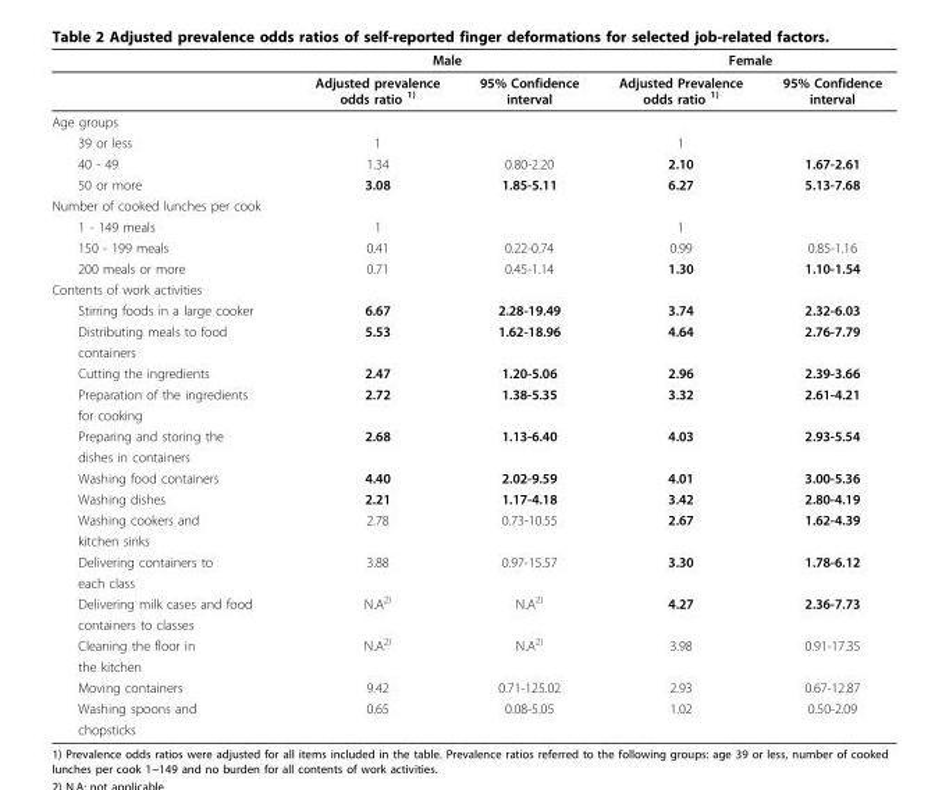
<table><thead><tr><td rowspan="2"></td><td colspan="2">Male</td><td colspan="2">Female</td></tr><tr><td>Adjusted prevalence odds ratio <sup>1)</sup></td><td>95% Confidence interval</td><td>Adjusted Prevalence odds ratio <sup>1)</sup></td><td>95% Confidence interval</td></tr></thead><tbody><tr><td colspan="5">Age groups</td></tr><tr><td>39 or less</td><td>1</td><td></td><td>1</td><td></td></tr><tr><td>40 - 49</td><td>1.34</td><td>0.80-2.20</td><td>2.10</td><td>1.67-2.61</td></tr><tr><td>50 or more</td><td>3.08</td><td>1.85-5.11</td><td>6.27</td><td>5.13-7.68</td></tr><tr><td colspan="5">Number of cooked lunches per cook</td></tr><tr><td>1 - 149 meals</td><td>1</td><td></td><td>1</td><td></td></tr><tr><td>150 - 199 meals</td><td>0.41</td><td>0.22-0.74</td><td>0.99</td><td>0.85-1.16</td></tr><tr><td>200 meals or more</td><td>0.71</td><td>0.45-1.14</td><td>1.30</td><td>1.10-1.54</td></tr><tr><td colspan="5">Contents of work activities</td></tr><tr><td>Stirring foods in a large cooker</td><td>6.67</td><td>2.28-19.49</td><td>3.74</td><td>2.32-6.03</td></tr><tr><td>Distributing meals to food</td><td>5.53</td><td>1.62-18.96</td><td>4.64</td><td>2.76-7.79</td></tr><tr><td colspan="5">containers</td></tr><tr><td>Cutting the ingredients</td><td>2.47</td><td>1.20-5.06</td><td>2.96</td><td>2.39-3.66</td></tr><tr><td>Preparation of the ingredients</td><td>2.72</td><td>1.38-5.35</td><td>3.32</td><td>2.61-4.21</td></tr><tr><td colspan="5">for cooking</td></tr><tr><td>Preparing and storing the</td><td>2.68</td><td>1.13-6.40</td><td>4.03</td><td>2.93-5.54</td></tr><tr><td colspan="5">dishes in containers</td></tr><tr><td>Washing food containers</td><td>4.40</td><td>2.02-9.59</td><td>4.01</td><td>3.00-5.36</td></tr><tr><td>Washing dishes</td><td>2.21</td><td>1.17-4.18</td><td>3.42</td><td>2.80-4.19</td></tr><tr><td>Washing cookers and</td><td>2.78</td><td>0.73-10.55</td><td>2.67</td><td>1.62-4.39</td></tr><tr><td colspan="5">kitchen sinks</td></tr><tr><td>Delivering containers to</td><td>3.88</td><td>0.97-15.57</td><td>3.30</td><td>1.78-6.12</td></tr><tr><td colspan="5">each class</td></tr><tr><td>Delivering milk cases and food</td><td>N.A<sup>2)</sup></td><td>N.A<sup>2)</sup></td><td>4.27</td><td>2.36-7.73</td></tr><tr><td colspan="5">containers to classes</td></tr><tr><td>Cleaning the floor in</td><td>N.A<sup>2)</sup></td><td>N.A<sup>2)</sup></td><td>3.98</td><td>0.91-17.35</td></tr><tr><td colspan="5">the kitchen</td></tr><tr><td>Moving containers</td><td>9.42</td><td>0.71-125.02</td><td>2.93</td><td>0.67-12.87</td></tr><tr><td>Washing spoons and</td><td>0.65</td><td>0.08-5.05</td><td>1.02</td><td>0.50-2.09</td></tr><tr><td colspan="5">chopsticks</td></tr></tbody></table>